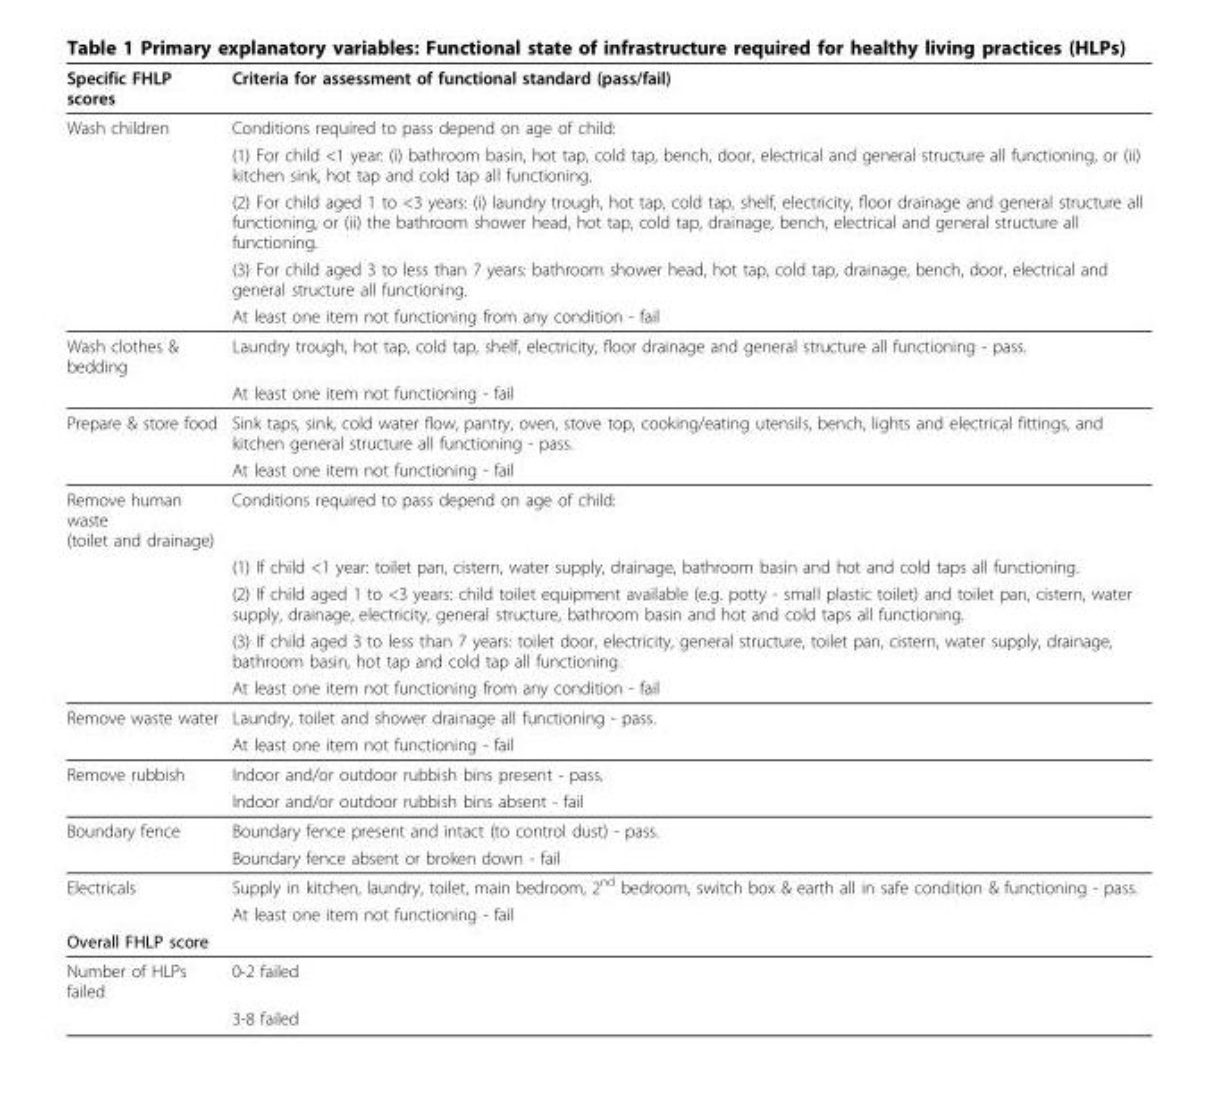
<table><thead><tr><td>Specific FHLP scores</td><td>Criteria for assessment of functional standard (pass/fail)</td></tr></thead><tbody><tr><td rowspan="5">Wash children</td><td>Conditions required to pass depend on age of child:</td></tr><tr><td>(1) For child &lt;1 year: (i) bathroom basin, hot tap, cold tap, bench, door, electrical and general structure all functioning, or (ii) kitchen sink, hot tap and cold tap all functioning.</td></tr><tr><td>(2) For child aged 1 to &lt;3 years: (i) laundry trough, hot tap, cold tap, shelf, electricity, floor drainage and general structure all functioning, or (ii) the bathroom shower head, hot tap, cold tap, drainage, bench, electrical and general structure all functioning.</td></tr><tr><td>(3) For child aged 3 to less than 7 years: bathroom shower head, hot tap, cold tap, drainage, bench, door, electrical and general structure all functioning.</td></tr><tr><td>At least one item not functioning from any condition - fail</td></tr><tr><td rowspan="2">Wash clothes &amp; bedding</td><td>Laundry trough, hot tap, cold tap, shelf, electricity, floor drainage and general structure all functioning - pass.</td></tr><tr><td>At least one item not functioning - fail</td></tr><tr><td rowspan="2">Prepare &amp; store food</td><td>Sink taps, sink, cold water flow, pantry, oven, stove top, cooking/eating utensils, bench, lights and electrical fittings, and kitchen general structure all functioning - pass.</td></tr><tr><td>At least one item not functioning - fail</td></tr><tr><td rowspan="5">Remove human waste (toilet and drainage)</td><td>Conditions required to pass depend on age of child:</td></tr><tr><td>(1) If child &lt;1 year: toilet pan, cistern, water supply, drainage, bathroom basin and hot and cold taps all functioning.</td></tr><tr><td>(2) If child aged 1 to &lt;3 years: child toilet equipment available (e.g. potty - small plastic toilet) and toilet pan, cistern, water supply, drainage, electricity, general structure, bathroom basin and hot and cold taps all functioning.</td></tr><tr><td>(3) If child aged 3 to less than 7 years: toilet door, electricity, general structure, toilet pan, cistern, water supply, drainage, bathroom basin, hot tap and cold tap all functioning.</td></tr><tr><td>At least one item not functioning from any condition - fail</td></tr><tr><td rowspan="2">Remove waste water</td><td>Laundry, toilet and shower drainage all functioning - pass.</td></tr><tr><td>At least one item not functioning - fail</td></tr><tr><td rowspan="2">Remove rubbish</td><td>Indoor and/or outdoor rubbish bins present - pass.</td></tr><tr><td>Indoor and/or outdoor rubbish bins absent - fail</td></tr><tr><td rowspan="2">Boundary fence</td><td>Boundary fence present and intact (to control dust) - pass.</td></tr><tr><td>Boundary fence absent or broken down - fail</td></tr><tr><td rowspan="2">Electricals</td><td>Supply in kitchen, laundry, toilet, main bedroom, 2<sup>nd</sup> bedroom, switch box &amp; earth all in safe condition &amp; functioning - pass.</td></tr><tr><td>At least one item not functioning - fail</td></tr><tr><td colspan="2">Overall FHLP score</td></tr><tr><td rowspan="2">Number of HLPs failed</td><td>0-2 failed</td></tr><tr><td>3-8 failed</td></tr></tbody></table>